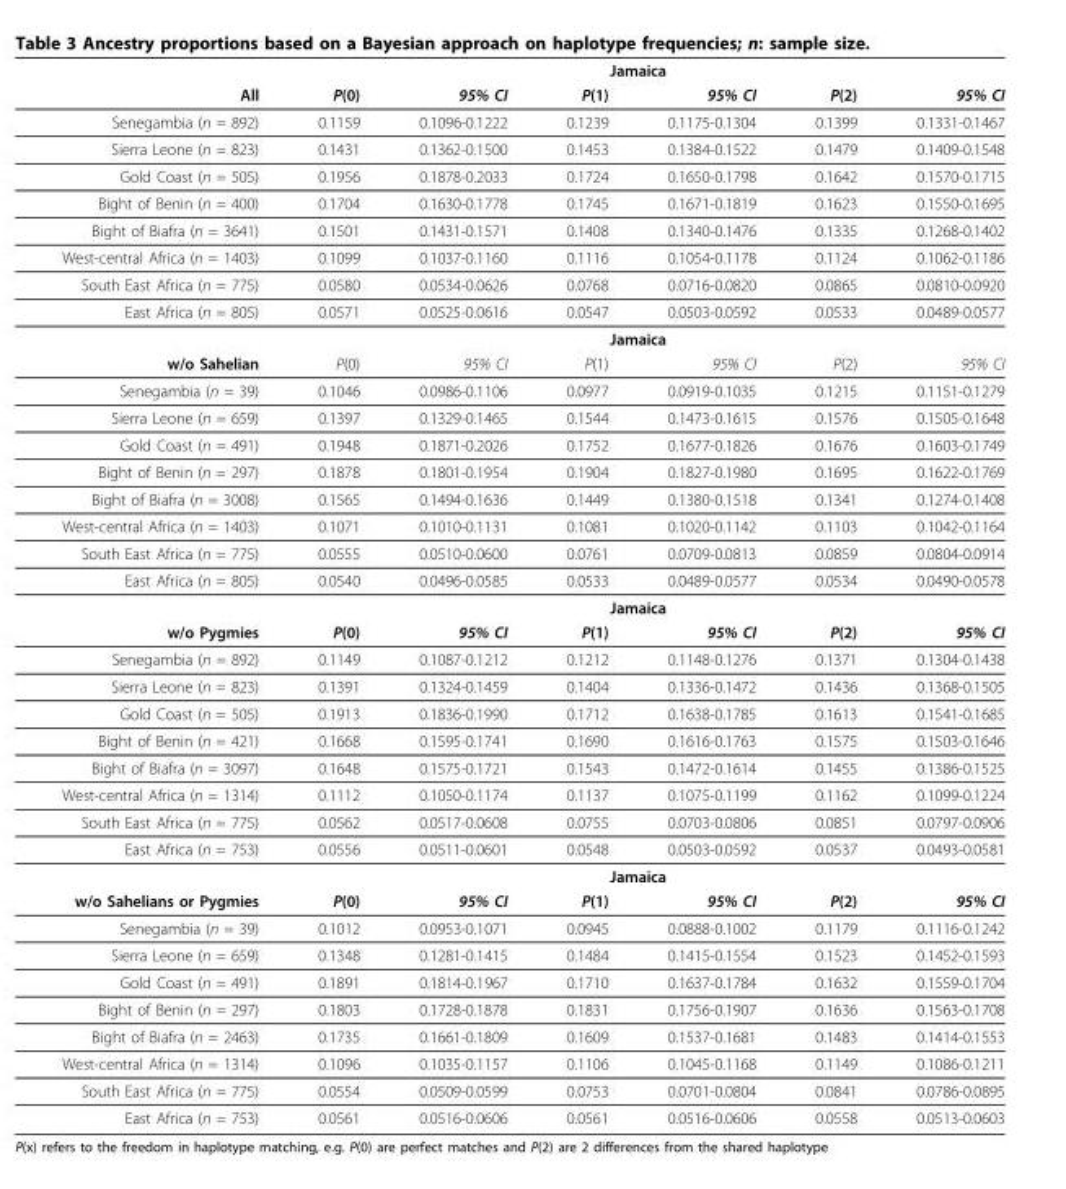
<table><thead><tr><td rowspan="2">All</td><td colspan="6">Jamaica</td></tr><tr><td>P(0)</td><td>95% CI</td><td>P(1)</td><td>95% CI</td><td>P(2)</td><td>95% CI</td></tr></thead><tbody><tr><td>Senegambia (n = 892)</td><td>0.1159</td><td>0.1096-0.1222</td><td>0.1239</td><td>0.1175-0.1304</td><td>0.1399</td><td>0.1331-0.1467</td></tr><tr><td>Sierra Leone (n = 823)</td><td>0.1431</td><td>0.1362-0.1500</td><td>0.1453</td><td>0.1384-0.1522</td><td>0.1479</td><td>0.1409-0.1548</td></tr><tr><td>Gold Coast (n = 505)</td><td>0.1956</td><td>0.1878-0.2033</td><td>0.1724</td><td>0.1650-0.1798</td><td>0.1642</td><td>0.1570-0.1715</td></tr><tr><td>Bight of Benin (n = 400)</td><td>0.1704</td><td>0.1630-0.1778</td><td>0.1745</td><td>0.1671-0.1819</td><td>0.1623</td><td>0.1550-0.1695</td></tr><tr><td>Bight of Biafra (n = 3641)</td><td>0.1501</td><td>0.1431-0.1571</td><td>0.1408</td><td>0.1340-0.1476</td><td>0.1335</td><td>0.1268-0.1402</td></tr><tr><td>West-central Africa (n = 1403)</td><td>0.1099</td><td>0.1037-0.1160</td><td>0.1116</td><td>0.1054-0.1178</td><td>0.1124</td><td>0.1062-0.1186</td></tr><tr><td>South East Africa (n = 775)</td><td>0.0580</td><td>0.0534-0.0626</td><td>0.0768</td><td>0.0716-0.0820</td><td>0.0865</td><td>0.0810-0.0920</td></tr><tr><td rowspan="2">East Africa (n = 805)</td><td>0.0571</td><td>0.0525-0.0616</td><td>0.0547</td><td>0.0503-0.0592</td><td>0.0533</td><td>0.0489-0.0577</td></tr><tr><td colspan="6">Jamaica</td></tr><tr><td>w/o Sahelian</td><td>P(0)</td><td>95% CI</td><td>P(1)</td><td>95% CI</td><td>P(2)</td><td>95% CI</td></tr><tr><td>Senegambia (n = 39)</td><td>0.1046</td><td>0.0986-0.1106</td><td>0.0977</td><td>0.0919-0.1035</td><td>0.1215</td><td>0.1151-0.1279</td></tr><tr><td>Sierra Leone (n = 659)</td><td>0.1397</td><td>0.1329-0.1465</td><td>0.1544</td><td>0.1473-0.1615</td><td>0.1576</td><td>0.1505-0.1648</td></tr><tr><td>Gold Coast (n = 491)</td><td>0.1948</td><td>0.1871-0.2026</td><td>0.1752</td><td>0.1677-0.1826</td><td>0.1676</td><td>0.1603-0.1749</td></tr><tr><td>Bight of Benin (n = 297)</td><td>0.1878</td><td>0.1801-0.1954</td><td>0.1904</td><td>0.1827-0.1980</td><td>0.1695</td><td>0.1622-0.1769</td></tr><tr><td>Bight of Biafra (n = 3008)</td><td>0.1565</td><td>0.1494-0.1636</td><td>0.1449</td><td>0.1380-0.1518</td><td>0.1341</td><td>0.1274-0.1408</td></tr><tr><td>West-central Africa (n = 1403)</td><td>0.1071</td><td>0.1010-0.1131</td><td>0.1081</td><td>0.1020-0.1142</td><td>0.1103</td><td>0.1042-0.1164</td></tr><tr><td>South East Africa (n = 775)</td><td>0.0555</td><td>0.0510-0.0600</td><td>0.0761</td><td>0.0709-0.0813</td><td>0.0859</td><td>0.0804-0.0914</td></tr><tr><td rowspan="2">East Africa (n = 805)</td><td>0.0540</td><td>0.0496-0.0585</td><td>0.0533</td><td>0.0489-0.0577</td><td>0.0534</td><td>0.0490-0.0578</td></tr><tr><td colspan="6">Jamaica</td></tr><tr><td>w/o Pygmies</td><td>P(0)</td><td>95% CI</td><td>P(1)</td><td>95% CI</td><td>P(2)</td><td>95% CI</td></tr><tr><td>Senegambia (n = 892)</td><td>0.1149</td><td>0.1087-0.1212</td><td>0.1212</td><td>0.1148-0.1276</td><td>0.1371</td><td>0.1304-0.1438</td></tr><tr><td>Sierra Leone (n = 823)</td><td>0.1391</td><td>0.1324-0.1459</td><td>0.1404</td><td>0.1336-0.1472</td><td>0.1436</td><td>0.1368-0.1505</td></tr><tr><td>Gold Coast (n = 505)</td><td>0.1913</td><td>0.1836-0.1990</td><td>0.1712</td><td>0.1638-0.1785</td><td>0.1613</td><td>0.1541-0.1685</td></tr><tr><td>Bight of Benin (n = 421)</td><td>0.1668</td><td>0.1595-0.1741</td><td>0.1690</td><td>0.1616-0.1763</td><td>0.1575</td><td>0.1503-0.1646</td></tr><tr><td>Bight of Biafra (n = 3097)</td><td>0.1648</td><td>0.1575-0.1721</td><td>0.1543</td><td>0.1472-0.1614</td><td>0.1455</td><td>0.1386-0.1525</td></tr><tr><td>West-central Africa (n = 1314)</td><td>0.1112</td><td>0.1050-0.1174</td><td>0.1137</td><td>0.1075-0.1199</td><td>0.1162</td><td>0.1099-0.1224</td></tr><tr><td>South East Africa (n = 775)</td><td>0.0562</td><td>0.0517-0.0608</td><td>0.0755</td><td>0.0703-0.0806</td><td>0.0851</td><td>0.0797-0.0906</td></tr><tr><td rowspan="2">East Africa (n = 753)</td><td>0.0556</td><td>0.0511-0.0601</td><td>0.0548</td><td>0.0503-0.0592</td><td>0.0537</td><td>0.0493-0.0581</td></tr><tr><td colspan="6">Jamaica</td></tr><tr><td>w/o Sahelians or Pygmies</td><td>P(0)</td><td>95% CI</td><td>P(1)</td><td>95% CI</td><td>P(2)</td><td>95% CI</td></tr><tr><td>Senegambia (n = 39)</td><td>0.1012</td><td>0.0953-0.1071</td><td>0.0945</td><td>0.0888-0.1002</td><td>0.1179</td><td>0.1116-0.1242</td></tr><tr><td>Sierra Leone (n = 659)</td><td>0.1348</td><td>0.1281-0.1415</td><td>0.1484</td><td>0.1415-0.1554</td><td>0.1523</td><td>0.1452-0.1593</td></tr><tr><td>Gold Coast (n = 491)</td><td>0.1891</td><td>0.1814-0.1967</td><td>0.1710</td><td>0.1637-0.1784</td><td>0.1632</td><td>0.1559-0.1704</td></tr><tr><td>Bight of Benin (n = 297)</td><td>0.1803</td><td>0.1728-0.1878</td><td>0.1831</td><td>0.1756-0.1907</td><td>0.1636</td><td>0.1563-0.1708</td></tr><tr><td>Bight of Biafra (n = 2463)</td><td>0.1735</td><td>0.1661-0.1809</td><td>0.1609</td><td>0.1537-0.1681</td><td>0.1483</td><td>0.1414-0.1553</td></tr><tr><td>West-central Africa (n = 1314)</td><td>0.1096</td><td>0.1035-0.1157</td><td>0.1106</td><td>0.1045-0.1168</td><td>0.1149</td><td>0.1086-0.1211</td></tr><tr><td>South East Africa (n = 775)</td><td>0.0554</td><td>0.0509-0.0599</td><td>0.0753</td><td>0.0701-0.0804</td><td>0.0841</td><td>0.0786-0.0895</td></tr><tr><td>East Africa (n = 753)</td><td>0.0561</td><td>0.0516-0.0606</td><td>0.0561</td><td>0.0516-0.0606</td><td>0.0558</td><td>0.0513-0.0603</td></tr></tbody></table>